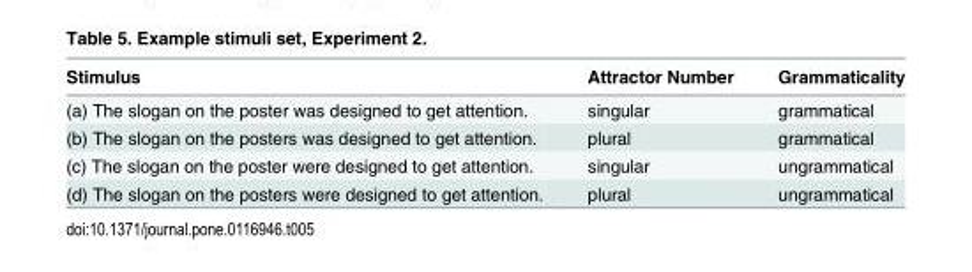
<table><thead><tr><td>Stimulus</td><td>Attractor Number</td><td>Grammaticality</td></tr></thead><tbody><tr><td>(a) The slogan on the poster was designed to get attention.</td><td>singular</td><td>grammatical</td></tr><tr><td>(b) The slogan on the posters was designed to get attention.</td><td>plural</td><td>grammatical</td></tr><tr><td>(c) The slogan on the poster were designed to get attention.</td><td>singular</td><td>ungrammatical</td></tr><tr><td>(d) The slogan on the posters were designed to get attention.</td><td>plural</td><td>ungrammatical</td></tr></tbody></table>